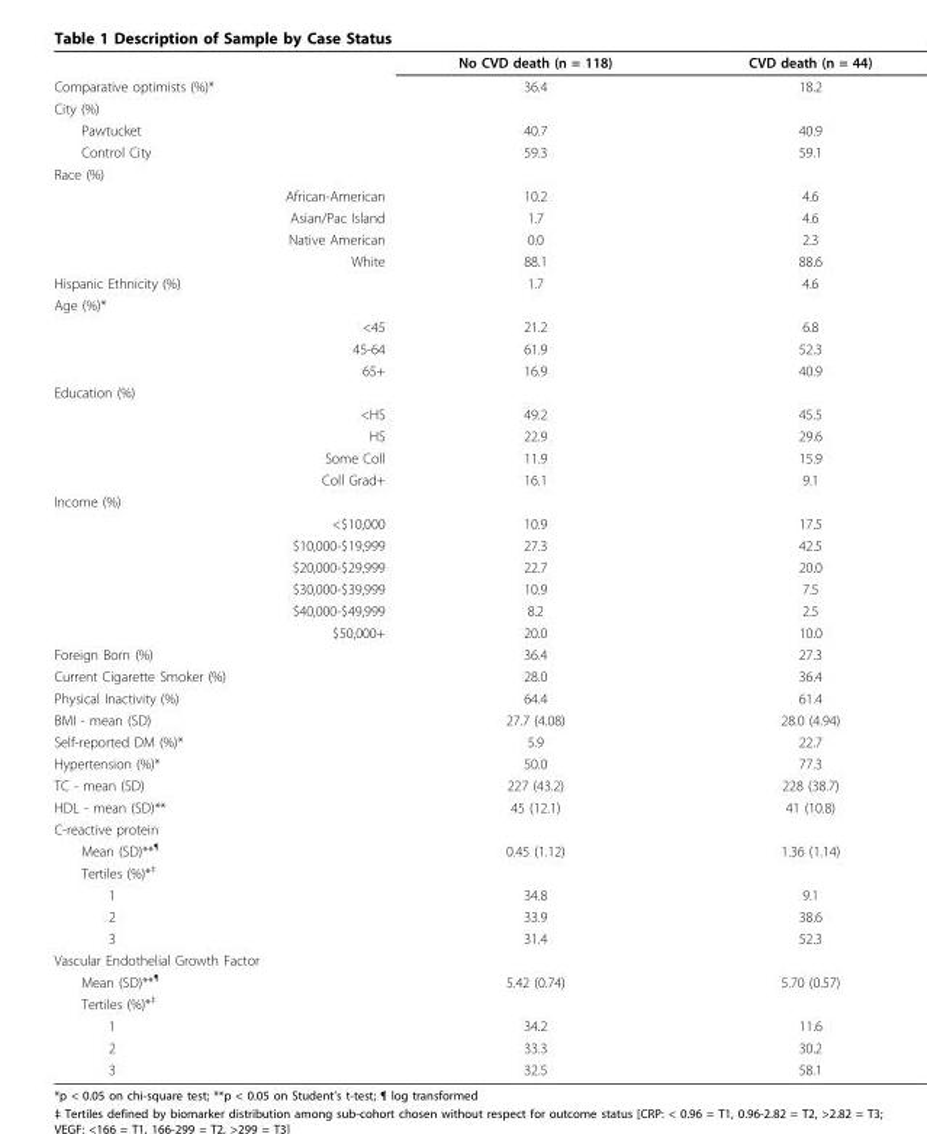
<table><thead><tr><td></td><td>No CVD death (n = 118)</td><td>CVD death (n = 44)</td></tr></thead><tbody><tr><td>Comparative optimists (%)*</td><td>36.4</td><td>18.2</td></tr><tr><td colspan="3">City (%)</td></tr><tr><td>Pawtucket</td><td>40.7</td><td>40.9</td></tr><tr><td>Control City</td><td>59.3</td><td>59.1</td></tr><tr><td colspan="3">Race (%)</td></tr><tr><td>African-American</td><td>10.2</td><td>4.6</td></tr><tr><td>Asian/Pac Island</td><td>1.7</td><td>4.6</td></tr><tr><td>Native American</td><td>0.0</td><td>2.3</td></tr><tr><td>White</td><td>88.1</td><td>88.6</td></tr><tr><td>Hispanic Ethnicity (%)</td><td>1.7</td><td>4.6</td></tr><tr><td colspan="3">Age (%)*</td></tr><tr><td>&lt;45</td><td>21.2</td><td>6.8</td></tr><tr><td>45-64</td><td>61.9</td><td>52.3</td></tr><tr><td>65+</td><td>16.9</td><td>40.9</td></tr><tr><td colspan="3">Education (%)</td></tr><tr><td>&lt;HS</td><td>49.2</td><td>45.5</td></tr><tr><td>HS</td><td>22.9</td><td>29.6</td></tr><tr><td>Some Coll</td><td>11.9</td><td>15.9</td></tr><tr><td>Coll Grad+</td><td>16.1</td><td>9.1</td></tr><tr><td colspan="3">Income (%)</td></tr><tr><td>&lt;$10,000</td><td>10.9</td><td>17.5</td></tr><tr><td>$10,000-$19,999</td><td>27.3</td><td>42.5</td></tr><tr><td>$20,000-$29,999</td><td>22.7</td><td>20.0</td></tr><tr><td>$30,000-$39,999</td><td>10.9</td><td>7.5</td></tr><tr><td>$40,000-$49,999</td><td>8.2</td><td>2.5</td></tr><tr><td>$50,000+</td><td>20.0</td><td>10.0</td></tr><tr><td>Foreign Born (%)</td><td>36.4</td><td>27.3</td></tr><tr><td>Current Cigarette Smoker (%)</td><td>28.0</td><td>36.4</td></tr><tr><td>Physical Inactivity (%)</td><td>64.4</td><td>61.4</td></tr><tr><td>BMI - mean (SD)</td><td>27.7 (4.08)</td><td>28.0 (4.94)</td></tr><tr><td>Self-reported DM (%)*</td><td>5.9</td><td>22.7</td></tr><tr><td>Hypertension (%)*</td><td>50.0</td><td>77.3</td></tr><tr><td>TC - mean (SD)</td><td>227 (43.2)</td><td>228 (38.7)</td></tr><tr><td>HDL - mean (SD)**</td><td>45 (12.1)</td><td>41 (10.8)</td></tr><tr><td colspan="3">C-reactive protein</td></tr><tr><td>Mean (SD)**<sup>¶</sup></td><td>0.45 (1.12)</td><td>1.36 (1.14)</td></tr><tr><td colspan="3">Tertiles (%)*<sup>‡</sup></td></tr><tr><td>1</td><td>34.8</td><td>9.1</td></tr><tr><td>2</td><td>33.9</td><td>38.6</td></tr><tr><td>3</td><td>31.4</td><td>52.3</td></tr><tr><td colspan="3">Vascular Endothelial Growth Factor</td></tr><tr><td>Mean (SD)**<sup>¶</sup></td><td>5.42 (0.74)</td><td>5.70 (0.57)</td></tr><tr><td colspan="3">Tertiles (%)*<sup>‡</sup></td></tr><tr><td>1</td><td>34.2</td><td>11.6</td></tr><tr><td>2</td><td>33.3</td><td>30.2</td></tr><tr><td>3</td><td>32.5</td><td>58.1</td></tr></tbody></table>